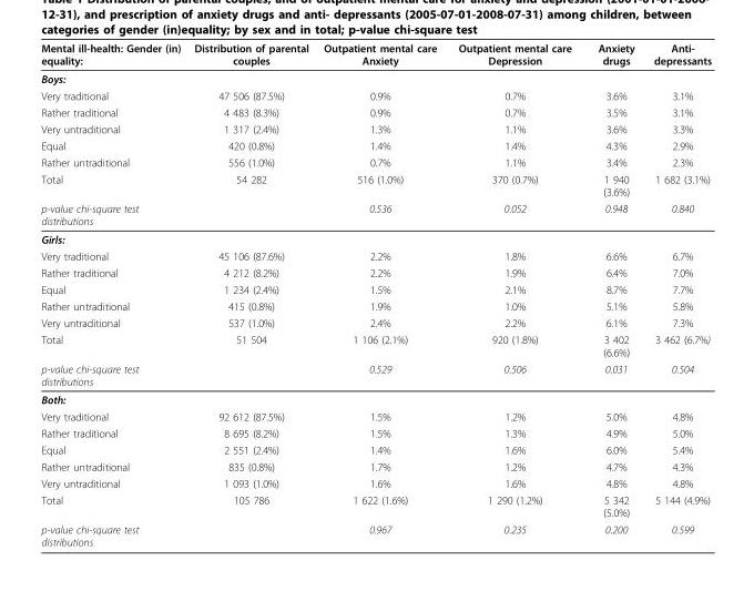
<table><thead><tr><td>Mental ill-health: Gender (in) equality:</td><td>Distribution of parental couples</td><td>Outpatient mental care Anxiety</td><td>Outpatient mental care Depression</td><td>Anxiety drugs</td><td>Anti- depressants</td></tr></thead><tbody><tr><td colspan="6">Boys:</td></tr><tr><td>Very traditional</td><td>47 506 (87.5%)</td><td>0.9%</td><td>0.7%</td><td>3.6%</td><td>3.1%</td></tr><tr><td>Rather traditional</td><td>4 483 (8.3%)</td><td>0.9%</td><td>0.7%</td><td>3.5%</td><td>3.1%</td></tr><tr><td>Very untraditional</td><td>1 317 (2.4%)</td><td>1.3%</td><td>1.1%</td><td>3.6%</td><td>3.3%</td></tr><tr><td>Equal</td><td>420 (0.8%)</td><td>1.4%</td><td>1.4%</td><td>4.3%</td><td>2.9%</td></tr><tr><td>Rather untraditional</td><td>556 (1.0%)</td><td>0.7%</td><td>1.1%</td><td>3.4%</td><td>2.3%</td></tr><tr><td>Total</td><td>54 282</td><td>516 (1.0%)</td><td>370 (0.7%)</td><td>1 940 (3.6%)</td><td>1 682 (3.1%)</td></tr><tr><td>p-value chi-square test distributions</td><td></td><td>0.536</td><td>0.052</td><td>0.948</td><td>0.840</td></tr><tr><td colspan="6">Girls:</td></tr><tr><td>Very traditional</td><td>45 106 (87.6%)</td><td>2.2%</td><td>1.8%</td><td>6.6%</td><td>6.7%</td></tr><tr><td>Rather traditional</td><td>4 212 (8.2%)</td><td>2.2%</td><td>1.9%</td><td>6.4%</td><td>7.0%</td></tr><tr><td>Equal</td><td>1 234 (2.4%)</td><td>1.5%</td><td>2.1%</td><td>8.7%</td><td>7.7%</td></tr><tr><td>Rather untraditional</td><td>415 (0.8%)</td><td>1.9%</td><td>1.0%</td><td>5.1%</td><td>5.8%</td></tr><tr><td>Very untraditional</td><td>537 (1.0%)</td><td>2.4%</td><td>2.2%</td><td>6.1%</td><td>7.3%</td></tr><tr><td>Total</td><td>51 504</td><td>1 106 (2.1%)</td><td>920 (1.8%)</td><td>3 402 (6.6%)</td><td>3 462 (6.7%)</td></tr><tr><td>p-value chi-square test distributions</td><td></td><td>0.529</td><td>0.506</td><td>0.031</td><td>0.504</td></tr><tr><td colspan="6">Both:</td></tr><tr><td>Very traditional</td><td>92 612 (87.5%)</td><td>1.5%</td><td>1.2%</td><td>5.0%</td><td>4.8%</td></tr><tr><td>Rather traditional</td><td>8 695 (8.2%)</td><td>1.5%</td><td>1.3%</td><td>4.9%</td><td>5.0%</td></tr><tr><td>Equal</td><td>2 551 (2.4%)</td><td>1.4%</td><td>1.6%</td><td>6.0%</td><td>5.4%</td></tr><tr><td>Rather untraditional</td><td>835 (0.8%)</td><td>1.7%</td><td>1.2%</td><td>4.7%</td><td>4.3%</td></tr><tr><td>Very untraditional</td><td>1 093 (1.0%)</td><td>1.6%</td><td>1.6%</td><td>4.8%</td><td>4.8%</td></tr><tr><td>Total</td><td>105 786</td><td>1 622 (1.6%)</td><td>1 290 (1.2%)</td><td>5 342 (5.0%)</td><td>5 144 (4.9%)</td></tr><tr><td>p-value chi-square test distributions</td><td></td><td>0.967</td><td>0.235</td><td>0.200</td><td>0.599</td></tr></tbody></table>